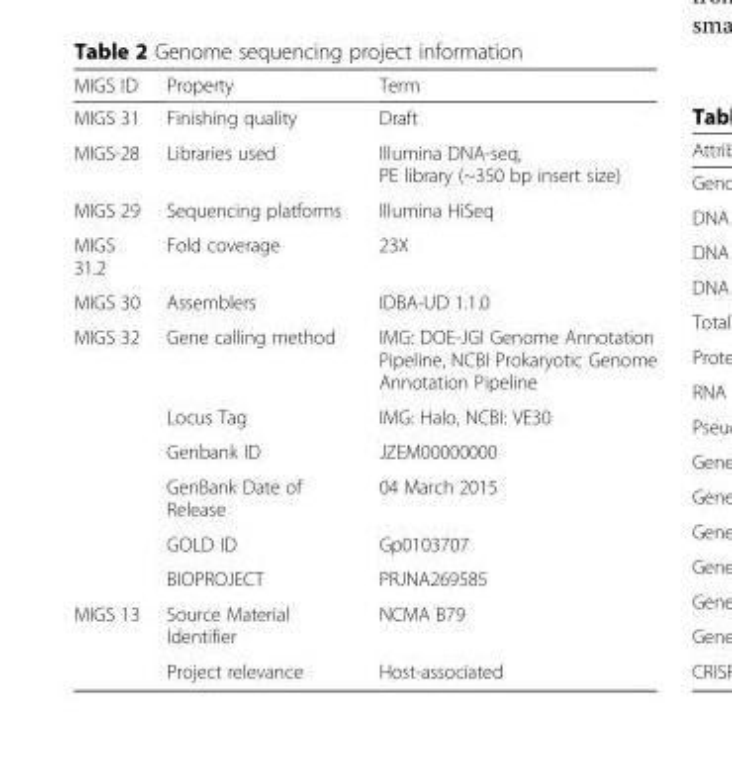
<table><thead><tr><td>MIGS ID</td><td>Property</td><td>Term</td></tr></thead><tbody><tr><td>MIGS 31</td><td>Finishing quality</td><td>Draft</td></tr><tr><td>MIGS-28</td><td>Libraries used</td><td>Illumina DNA-seq, PE library (~350 bp insert size)</td></tr><tr><td>MIGS 29</td><td>Sequencing platforms</td><td>Illumina HiSeq</td></tr><tr><td>MIGS 31.2</td><td>Fold coverage</td><td>23X</td></tr><tr><td>MIGS 30</td><td>Assemblers</td><td>IDBA-UD 1.1.0</td></tr><tr><td rowspan="6">MIGS 32</td><td>Gene calling method</td><td>IMG: DOE-JGI Genome Annotation Pipeline, NCBI Prokaryotic Genome Annotation Pipeline</td></tr><tr><td>Locus Tag</td><td>IMG: Halo, NCBI: VE30</td></tr><tr><td>Genbank ID</td><td>JZEM00000000</td></tr><tr><td>GenBank Date of Release</td><td>04 March 2015</td></tr><tr><td>GOLD ID</td><td>Gp0103707</td></tr><tr><td>BIOPROJECT</td><td>PRJNA269585</td></tr><tr><td rowspan="2">MIGS 13</td><td>Source Material Identifier</td><td>NCMA B79</td></tr><tr><td>Project relevance</td><td>Host-associated</td></tr></tbody></table>